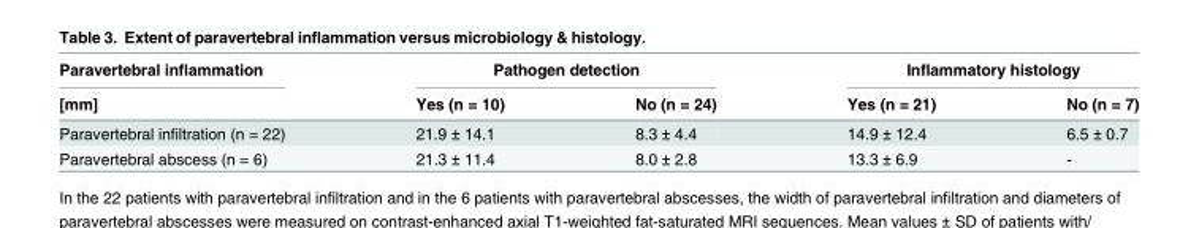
<table><thead><tr><td rowspan="2">Paravertebral inflammation [mm]</td><td colspan="2">Pathogen detection</td><td colspan="2">Inflammatory histology</td></tr><tr><td>Yes (n = 10)</td><td>No (n = 24)</td><td>Yes (n = 21)</td><td>No (n = 7)</td></tr></thead><tbody><tr><td>Paravertebral infiltration (n = 22)</td><td>21.9 ± 14.1</td><td>8.3 ± 4.4</td><td>14.9 ± 12.4</td><td>6.5 ± 0.7</td></tr><tr><td>Paravertebral abscess (n = 6)</td><td>21.3 ± 11.4</td><td>8.0 ± 2.8</td><td>13.3 ± 6.9</td><td>-</td></tr></tbody></table>